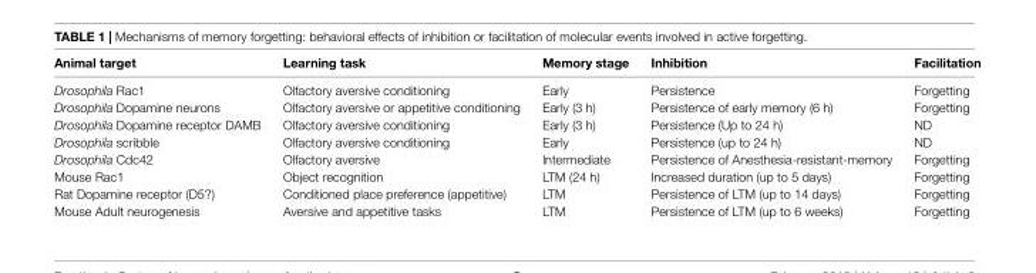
<table><thead><tr><td>Animal target</td><td>Learning task</td><td>Memory stage</td><td>Inhibition</td><td>Facilitation</td></tr></thead><tbody><tr><td>Drosophila Rac1</td><td>Olfactory aversive conditioning</td><td>Early</td><td>Persistence</td><td>Forgetting</td></tr><tr><td>Drosophila Dopamine neurons</td><td>Olfactory aversive or appetitive conditioning</td><td>Early (3 h)</td><td>Persistence of early memory (6 h)</td><td>Forgetting</td></tr><tr><td>Drosophila Dopamine receptor DAMB</td><td>Olfactory aversive conditioning</td><td>Early (3 h)</td><td>Persistence (Up to 24 h)</td><td>ND</td></tr><tr><td>Drosophila scribble</td><td>Olfactory aversive conditioning</td><td>Early</td><td>Persistence (up to 24 h)</td><td>ND</td></tr><tr><td>Drosophila Cdc42</td><td>Olfactory aversive</td><td>Intermediate</td><td>Persistence of Anesthesia-resistant-memory</td><td>Forgetting</td></tr><tr><td>Mouse Rac1</td><td>Object recognition</td><td>LTM (24 h)</td><td>Increased duration (up to 5 days)</td><td>Forgetting</td></tr><tr><td>Rat Dopamine receptor (D5?)</td><td>Conditioned place preference (appetitive)</td><td>LTM</td><td>Persistence of LTM (up to 14 days)</td><td>Forgetting</td></tr><tr><td>Mouse Adult neurogenesis</td><td>Aversive and appetitive tasks</td><td>LTM</td><td>Persistence of LTM (up to 6 weeks)</td><td>Forgetting</td></tr></tbody></table>